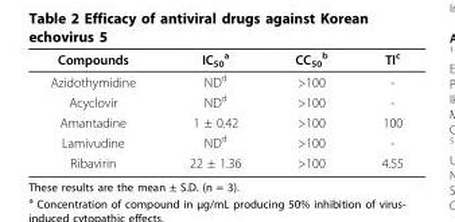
<table><thead><tr><td>Compounds</td><td>IC<sub>50</sub> <sup>a</sup></td><td>CC<sub>50</sub> <sup>b</sup></td><td>TI<sup>c</sup></td></tr></thead><tbody><tr><td>Azidothymidine</td><td>ND<sup>d</sup></td><td>&gt;100</td><td>-</td></tr><tr><td>Acyclovir</td><td>ND<sup>d</sup></td><td>&gt;100</td><td>-</td></tr><tr><td>Amantadine</td><td>1 ± 0.42</td><td>&gt;100</td><td>100</td></tr><tr><td>Lamivudine</td><td>ND<sup>d</sup></td><td>&gt;100</td><td>-</td></tr><tr><td>Ribavirin</td><td>22 ± 1.36</td><td>&gt;100</td><td>4.55</td></tr></tbody></table>